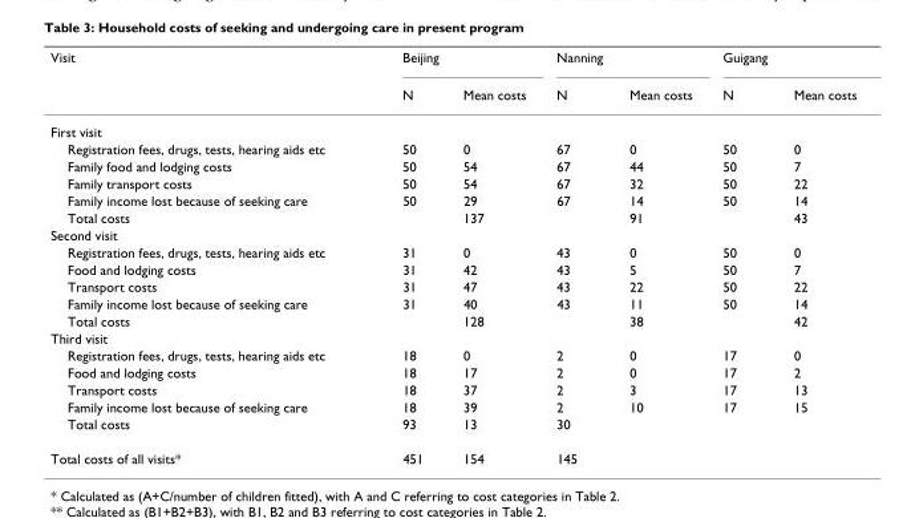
<table><thead><tr><td rowspan="2">Visit</td><td rowspan="2">Beijing N</td><td rowspan="2">Mean costs</td><td rowspan="2">Nanning N</td><td rowspan="2">Mean costs</td><td rowspan="2">Guigang N</td><td rowspan="2">Mean costs</td></tr><tr></tr></thead><tbody><tr><td colspan="7">First visit</td></tr><tr><td>Registration fees, drugs, tests, hearing aids etc</td><td>50</td><td>0</td><td>67</td><td>0</td><td>50</td><td>0</td></tr><tr><td>Family food and lodging costs</td><td>50</td><td>54</td><td>67</td><td>44</td><td>50</td><td>7</td></tr><tr><td>Family transport costs</td><td>50</td><td>54</td><td>67</td><td>32</td><td>50</td><td>22</td></tr><tr><td>Family income lost because of seeking care</td><td>50</td><td>29</td><td>67</td><td>14</td><td>50</td><td>14</td></tr><tr><td>Total costs</td><td></td><td>137</td><td></td><td>91</td><td></td><td>43</td></tr><tr><td colspan="7">Second visit</td></tr><tr><td>Registration fees, drugs, tests, hearing aids etc</td><td>31</td><td>0</td><td>43</td><td>0</td><td>50</td><td>0</td></tr><tr><td>Food and lodging costs</td><td>31</td><td>42</td><td>43</td><td>5</td><td>50</td><td>7</td></tr><tr><td>Transport costs</td><td>31</td><td>47</td><td>43</td><td>22</td><td>50</td><td>22</td></tr><tr><td>Family income lost because of seeking care</td><td>31</td><td>40</td><td>43</td><td>11</td><td>50</td><td>14</td></tr><tr><td>Total costs</td><td></td><td>128</td><td></td><td>38</td><td></td><td>42</td></tr><tr><td colspan="7">Third visit</td></tr><tr><td>Registration fees, drugs, tests, hearing aids etc</td><td>18</td><td>0</td><td>2</td><td>0</td><td>17</td><td>0</td></tr><tr><td>Food and lodging costs</td><td>18</td><td>17</td><td>2</td><td>0</td><td>17</td><td>2</td></tr><tr><td>Transport costs</td><td>18</td><td>37</td><td>2</td><td>3</td><td>17</td><td>13</td></tr><tr><td>Family income lost because of seeking care</td><td>18</td><td>39</td><td>2</td><td>10</td><td>17</td><td>15</td></tr><tr><td>Total costs</td><td>93</td><td>13</td><td>30</td><td></td><td></td><td></td></tr><tr><td>Total costs of all visits*</td><td>451</td><td>154</td><td>145</td><td></td><td></td><td></td></tr></tbody></table>